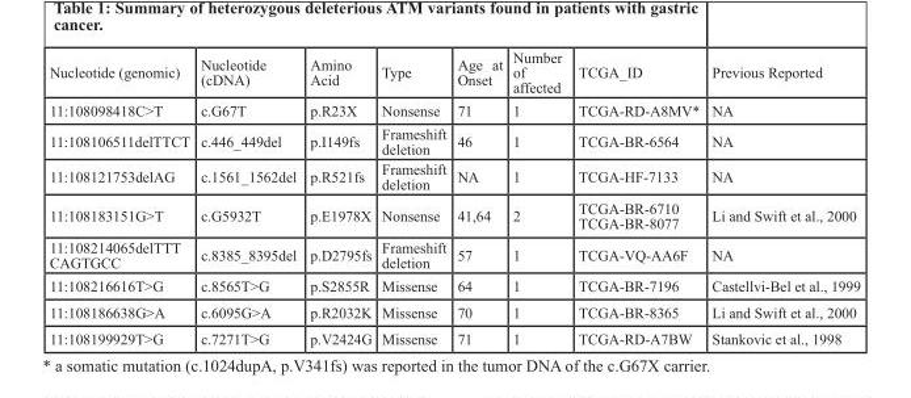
<table><thead><tr><td>Nucleotide (genomic)</td><td>Nucleotide (cDNA)</td><td>Amino Acid</td><td>Type</td><td>Age at Onset</td><td>Number of affected</td><td>TCGA_ID</td><td>Previous Reported</td></tr></thead><tbody><tr><td>11:108098418C&gt;T</td><td>c.G67T</td><td>p.R23X</td><td>Nonsense</td><td>71</td><td>1</td><td>TCGA-RD-A8MV*</td><td>NA</td></tr><tr><td>11:108106511delTTCT</td><td>c.446_449del</td><td>p.I149fs</td><td>Frameshift deletion</td><td>46</td><td>1</td><td>TCGA-BR-6564</td><td>NA</td></tr><tr><td>11:108121753delAG</td><td>c.1561_1562del</td><td>p.R521fs</td><td>Frameshift deletion</td><td>NA</td><td>1</td><td>TCGA-HF-7133</td><td>NA</td></tr><tr><td>11:108183151G&gt;T</td><td>c.G5932T</td><td>p.E1978X</td><td>Nonsense</td><td>41,64</td><td>2</td><td>TCGA-BR-6710 TCGA-BR-8077</td><td>Li and Swift et al., 2000</td></tr><tr><td>11:108214065delTTT CAGTGCC</td><td>c.8385_8395del</td><td>p.D2795fs</td><td>Frameshift deletion</td><td>57</td><td>1</td><td>TCGA-VQ-AA6F</td><td>NA</td></tr><tr><td>11:108216616T&gt;G</td><td>c.8565T&gt;G</td><td>p.S2855R</td><td>Missense</td><td>64</td><td>1</td><td>TCGA-BR-7196</td><td>Castellvi-Bel et al., 1999</td></tr><tr><td>11:108186638G&gt;A</td><td>c.6095G&gt;A</td><td>p.R2032K</td><td>Missense</td><td>70</td><td>1</td><td>TCGA-BR-8365</td><td>Li and Swift et al., 2000</td></tr><tr><td>11:108199929T&gt;G</td><td>c.7271T&gt;G</td><td>p.V2424G</td><td>Missense</td><td>71</td><td>1</td><td>TCGA-RD-A7BW</td><td>Stankovic et al., 1998</td></tr></tbody></table>